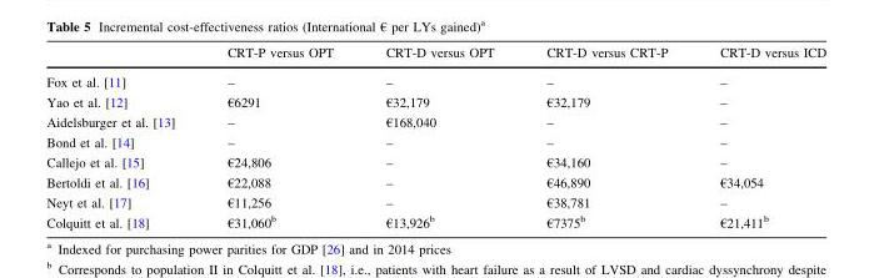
<table><thead><tr><td></td><td>CRT-P versus OPT</td><td>CRT-D versus OPT</td><td>CRT-D versus CRT-P</td><td>CRT-D versus ICD</td></tr></thead><tbody><tr><td>Fox et al. [11]</td><td>–</td><td>–</td><td>–</td><td>–</td></tr><tr><td>Yao et al. [12]</td><td>€6291</td><td>€32,179</td><td>€32,179</td><td>–</td></tr><tr><td>Aidelsburger et al. [13]</td><td>–</td><td>€168,040</td><td>–</td><td>–</td></tr><tr><td>Bond et al. [14]</td><td>–</td><td>–</td><td>–</td><td>–</td></tr><tr><td>Callejo et al. [15]</td><td>€24,806</td><td>–</td><td>€34,160</td><td>–</td></tr><tr><td>Bertoldi et al. [16]</td><td>€22,088</td><td>–</td><td>€46,890</td><td>€34,054</td></tr><tr><td>Neyt et al. [17]</td><td>€11,256</td><td>–</td><td>€38,781</td><td>–</td></tr><tr><td>Colquitt et al. [18]</td><td>€31,060<sup>b</sup></td><td>€13,926<sup>b</sup></td><td>€7375<sup>b</sup></td><td>€21,411<sup>b</sup></td></tr></tbody></table>